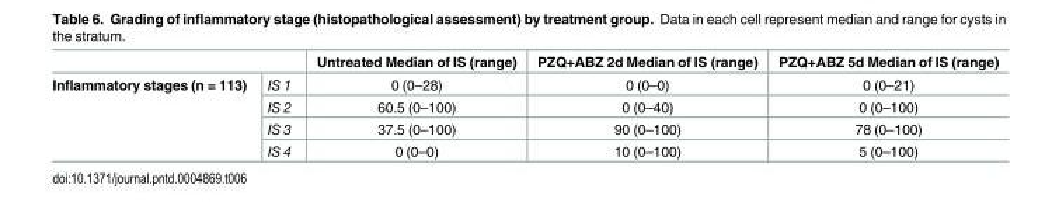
<table><thead><tr><td></td><td></td><td>Untreated Median of IS (range)</td><td>PZQ+ABZ 2d Median of IS (range)</td><td>PZQ+ABZ 5d Median of IS (range)</td></tr></thead><tbody><tr><td rowspan="4">Inflammatory stages (n = 113)</td><td>IS 1</td><td>0 (0–28)</td><td>0 (0–0)</td><td>0 (0–21)</td></tr><tr><td>IS 2</td><td>60.5 (0–100)</td><td>0 (0–40)</td><td>0 (0–100)</td></tr><tr><td>IS 3</td><td>37.5 (0–100)</td><td>90 (0–100)</td><td>78 (0–100)</td></tr><tr><td>IS 4</td><td>0 (0–0)</td><td>10 (0–100)</td><td>5 (0–100)</td></tr></tbody></table>